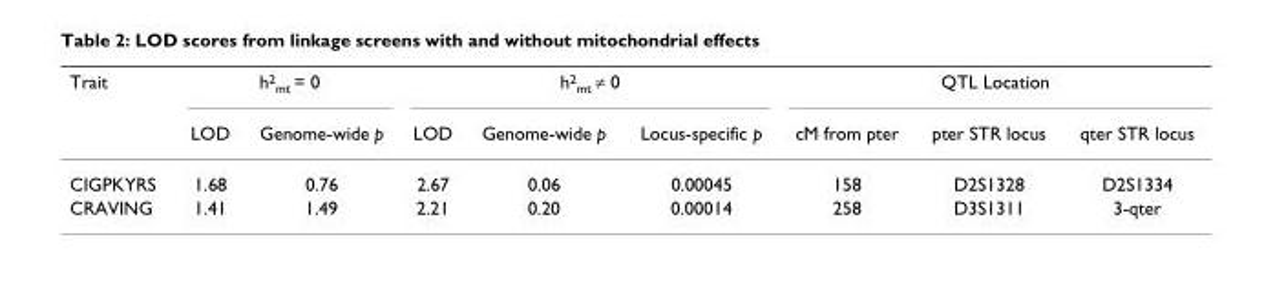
<table><thead><tr><td rowspan="2">Trait</td><td colspan="2">h2mt = 0</td><td colspan="3">h2mt ≠ 0</td><td colspan="3">QTL Location</td></tr><tr><td>LOD</td><td>Genome-wide p</td><td>LOD</td><td>Genome-wide p</td><td>Locus-specific p</td><td>cM from pter</td><td>pter STR locus</td><td>qter STR locus</td></tr></thead><tbody><tr><td>CIGPKYRS</td><td>1.68</td><td>0.76</td><td>2.67</td><td>0.06</td><td>0.00045</td><td>158</td><td>D2S1328</td><td>D2S1334</td></tr><tr><td>CRAVING</td><td>1.41</td><td>1.49</td><td>2.21</td><td>0.20</td><td>0.00014</td><td>258</td><td>D3S1311</td><td>3-qter</td></tr></tbody></table>